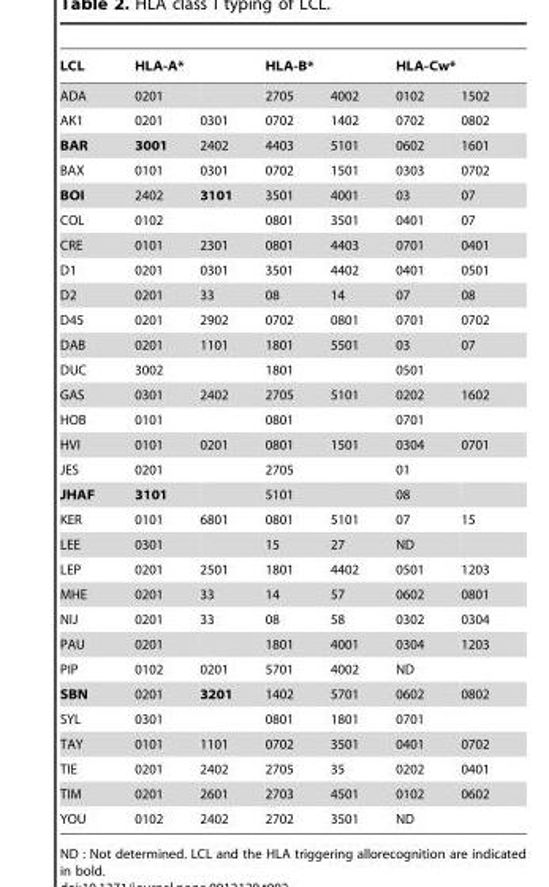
<table><thead><tr><td rowspan="2">LCL ADA</td><td colspan="2">HLA-A*</td><td colspan="2">HLA-B*</td><td colspan="2">HLA-Cw*</td></tr><tr><td>0201</td><td></td><td>2705</td><td>4002</td><td>0102</td><td>1502</td></tr></thead><tbody><tr><td>AK1</td><td>0201</td><td>0301</td><td>0702</td><td>1402</td><td>0702</td><td>0802</td></tr><tr><td>BAR</td><td>3001</td><td>2402</td><td>4403</td><td>5101</td><td>0602</td><td>1601</td></tr><tr><td>BAX</td><td>0101</td><td>0301</td><td>0702</td><td>1501</td><td>0303</td><td>0702</td></tr><tr><td>BOI</td><td>2402</td><td>3101</td><td>3501</td><td>4001</td><td>03</td><td>07</td></tr><tr><td>COL</td><td>0102</td><td></td><td>0801</td><td>3501</td><td>0401</td><td>07</td></tr><tr><td>CRE</td><td>0101</td><td>2301</td><td>0801</td><td>4403</td><td>0701</td><td>0401</td></tr><tr><td>D1</td><td>0201</td><td>0301</td><td>3501</td><td>4402</td><td>0401</td><td>0501</td></tr><tr><td>D2</td><td>0201</td><td>33</td><td>08</td><td>14</td><td>07</td><td>08</td></tr><tr><td>D45</td><td>0201</td><td>2902</td><td>0702</td><td>0801</td><td>0701</td><td>0702</td></tr><tr><td>DAB</td><td>0201</td><td>1101</td><td>1801</td><td>5501</td><td>03</td><td>07</td></tr><tr><td>DUC</td><td>3002</td><td></td><td>1801</td><td></td><td>0501</td><td></td></tr><tr><td>GAS</td><td>0301</td><td>2402</td><td>2705</td><td>5101</td><td>0202</td><td>1602</td></tr><tr><td>HOB</td><td>0101</td><td></td><td>0801</td><td></td><td>0701</td><td></td></tr><tr><td>HVI</td><td>0101</td><td>0201</td><td>0801</td><td>1501</td><td>0304</td><td>0701</td></tr><tr><td>JES</td><td>0201</td><td></td><td>2705</td><td></td><td>01</td><td></td></tr><tr><td>JHAF</td><td>3101</td><td></td><td>5101</td><td></td><td>08</td><td></td></tr><tr><td>KER</td><td>0101</td><td>6801</td><td>0801</td><td>5101</td><td>07</td><td>15</td></tr><tr><td>LEE</td><td>0301</td><td></td><td>15</td><td>27</td><td>ND</td><td></td></tr><tr><td>LEP</td><td>0201</td><td>2501</td><td>1801</td><td>4402</td><td>0501</td><td>1203</td></tr><tr><td>MHE</td><td>0201</td><td>33</td><td>14</td><td>57</td><td>0602</td><td>0801</td></tr><tr><td>NIJ</td><td>0201</td><td>33</td><td>08</td><td>58</td><td>0302</td><td>0304</td></tr><tr><td>PAU</td><td>0201</td><td></td><td>1801</td><td>4001</td><td>0304</td><td>1203</td></tr><tr><td>PIP</td><td>0102</td><td>0201</td><td>5701</td><td>4002</td><td>ND</td><td></td></tr><tr><td>SBN</td><td>0201</td><td>3201</td><td>1402</td><td>5701</td><td>0602</td><td>0802</td></tr><tr><td>SYL</td><td>0301</td><td></td><td>0801</td><td>1801</td><td>0701</td><td></td></tr><tr><td>TAY</td><td>0101</td><td>1101</td><td>0702</td><td>3501</td><td>0401</td><td>0702</td></tr><tr><td>TIE</td><td>0201</td><td>2402</td><td>2705</td><td>35</td><td>0202</td><td>0401</td></tr><tr><td>TIM</td><td>0201</td><td>2601</td><td>2703</td><td>4501</td><td>0102</td><td>0602</td></tr><tr><td>YOU</td><td>0102</td><td>2402</td><td>2702</td><td>3501</td><td>ND</td><td></td></tr></tbody></table>